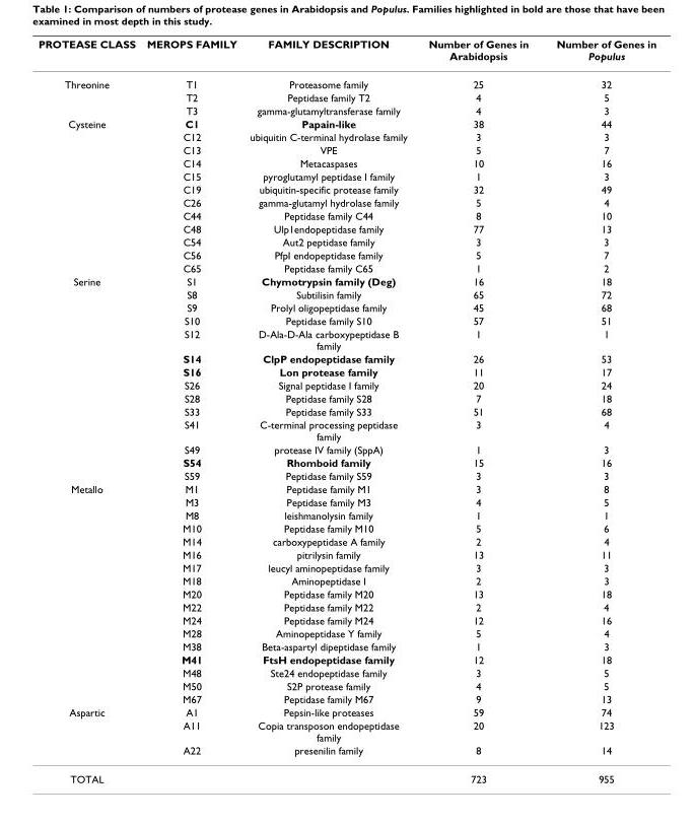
<table><thead><tr><td>PROTEASE CLASS</td><td>MEROPS FAMILY</td><td>FAMILY DESCRIPTION</td><td>Number of Genes in Arabidopsis</td><td>Number of Genes in Populus</td></tr></thead><tbody><tr><td rowspan="3">Threonine</td><td>T1</td><td>Proteasome family</td><td>25</td><td>32</td></tr><tr><td>T2</td><td>Peptidase family T2</td><td>4</td><td>5</td></tr><tr><td>T3</td><td>gamma-glutamyltransferase family</td><td>4</td><td>3</td></tr><tr><td rowspan="12">Cysteine</td><td>C1</td><td>Papain-like</td><td>38</td><td>44</td></tr><tr><td>C12</td><td>ubiquitin C-terminal hydrolase family</td><td>3</td><td>3</td></tr><tr><td>C13</td><td>VPE</td><td>5</td><td>7</td></tr><tr><td>C14</td><td>Metacaspases</td><td>10</td><td>16</td></tr><tr><td>C15</td><td>pyroglutamyl peptidase I family</td><td>1</td><td>3</td></tr><tr><td>C19</td><td>ubiquitin-specific protease family</td><td>32</td><td>49</td></tr><tr><td>C26</td><td>gamma-glutamyl hydrolase family</td><td>5</td><td>4</td></tr><tr><td>C44</td><td>Peptidase family C44</td><td>8</td><td>10</td></tr><tr><td>C48</td><td>Ulp1endopeptidase family</td><td>77</td><td>13</td></tr><tr><td>C54</td><td>Aut2 peptidase family</td><td>3</td><td>3</td></tr><tr><td>C56</td><td>PfpI endopeptidase family</td><td>5</td><td>7</td></tr><tr><td>C65</td><td>Peptidase family C65</td><td>1</td><td>2</td></tr><tr><td rowspan="14">Serine</td><td>S1</td><td>Chymotrypsin family (Deg)</td><td>16</td><td>18</td></tr><tr><td>S8</td><td>Subtilisin family</td><td>65</td><td>72</td></tr><tr><td>S9</td><td>Prolyl oligopeptidase family</td><td>45</td><td>68</td></tr><tr><td>S10</td><td>Peptidase family S10</td><td>57</td><td>51</td></tr><tr><td>S12</td><td>D-Ala-D-Ala carboxypeptidase B family</td><td>1</td><td>1</td></tr><tr><td>S14</td><td>ClpP endopeptidase family</td><td>26</td><td>53</td></tr><tr><td>S16</td><td>Lon protease family</td><td>11</td><td>17</td></tr><tr><td>S26</td><td>Signal peptidase I family</td><td>20</td><td>24</td></tr><tr><td>S28</td><td>Peptidase family S28</td><td>7</td><td>18</td></tr><tr><td>S33</td><td>Peptidase family S33</td><td>51</td><td>68</td></tr><tr><td>S41</td><td>C-terminal processing peptidase family</td><td>3</td><td>4</td></tr><tr><td>S49</td><td>protease IV family (SppA)</td><td>1</td><td>3</td></tr><tr><td>S54</td><td>Rhomboid family</td><td>15</td><td>16</td></tr><tr><td>S59</td><td>Peptidase family S59</td><td>3</td><td>3</td></tr><tr><td rowspan="17">Metallo</td><td>M1</td><td>Peptidase family M1</td><td>3</td><td>8</td></tr><tr><td>M3</td><td>Peptidase family M3</td><td>4</td><td>5</td></tr><tr><td>M8</td><td>leishmanolysin family</td><td>1</td><td>1</td></tr><tr><td>M10</td><td>Peptidase family M10</td><td>5</td><td>6</td></tr><tr><td>M14</td><td>carboxypeptidase A family</td><td>2</td><td>4</td></tr><tr><td>M16</td><td>pitrilysin family</td><td>13</td><td>11</td></tr><tr><td>M17</td><td>leucyl aminopeptidase family</td><td>3</td><td>3</td></tr><tr><td>M18</td><td>Aminopeptidase I</td><td>2</td><td>3</td></tr><tr><td>M20</td><td>Peptidase family M20</td><td>13</td><td>18</td></tr><tr><td>M22</td><td>Peptidase family M22</td><td>2</td><td>4</td></tr><tr><td>M24</td><td>Peptidase family M24</td><td>12</td><td>16</td></tr><tr><td>M28</td><td>Aminopeptidase Y family</td><td>5</td><td>4</td></tr><tr><td>M38</td><td>Beta-aspartyl dipeptidase family</td><td>1</td><td>3</td></tr><tr><td>M41</td><td>FtsH endopeptidase family</td><td>12</td><td>18</td></tr><tr><td>M48</td><td>Ste24 endopeptidase family</td><td>3</td><td>5</td></tr><tr><td>M50</td><td>S2P protease family</td><td>4</td><td>5</td></tr><tr><td>M67</td><td>Peptidase family M67</td><td>9</td><td>13</td></tr><tr><td rowspan="3">Aspartic</td><td>A1</td><td>Pepsin-like proteases</td><td>59</td><td>74</td></tr><tr><td>A11</td><td>Copia transposon endopeptidase family</td><td>20</td><td>123</td></tr><tr><td>A22</td><td>presenilin family</td><td>8</td><td>14</td></tr><tr><td>TOTAL</td><td></td><td></td><td>723</td><td>955</td></tr></tbody></table>